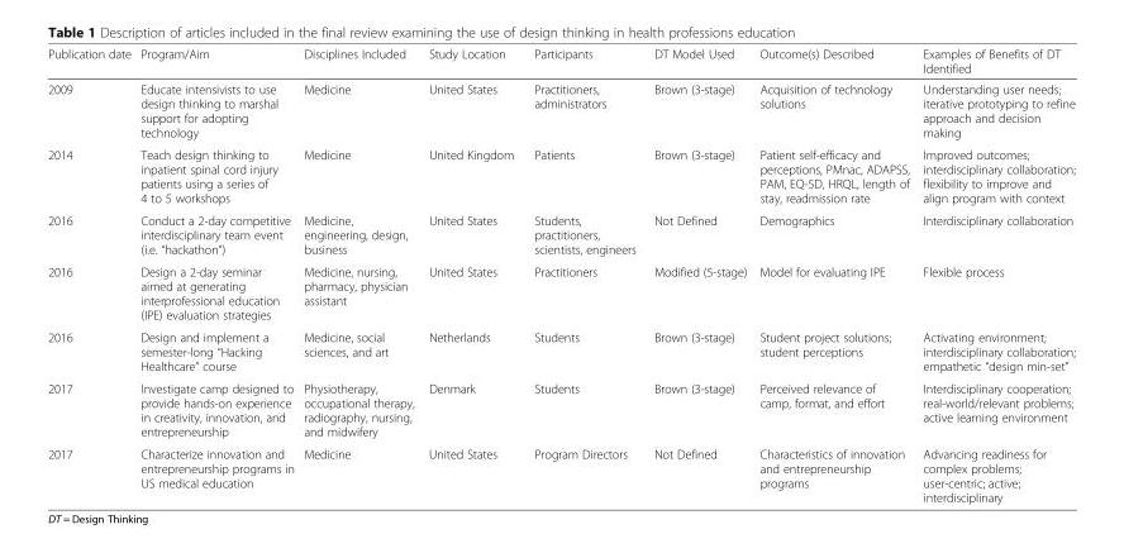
<table><thead><tr><td>Publication date</td><td>Program/Aim</td><td>Disciplines Included</td><td>Study Location</td><td>Participants</td><td>DT Model Used</td><td>Outcome(s) Described</td><td>Examples of Benefits of DT Identified</td></tr></thead><tbody><tr><td>2009</td><td>Educate intensivists to use design thinking to marshal support for adopting technology</td><td>Medicine</td><td>United States</td><td>Practitioners, administrators</td><td>Brown (3-stage)</td><td>Acquisition of technology solutions</td><td>Understanding user needs; iterative prototyping to refine approach and decision making</td></tr><tr><td>2014</td><td>Teach design thinking to inpatient spinal cord injury patients using a series of 4 to 5 workshops</td><td>Medicine</td><td>United Kingdom</td><td>Patients</td><td>Brown (3-stage)</td><td>Patient self-efficacy and perceptions, PMnac, ADAPSS, PAM, EQ-5D, HRQL, length of stay, readmission rate</td><td>Improved outcomes; interdisciplinary collaboration; flexibility to improve and align program with context</td></tr><tr><td>2016</td><td>Conduct a 2-day competitive interdisciplinary team event (i.e. “hackathon”)</td><td>Medicine, engineering, design, business</td><td>United States</td><td>Students, practitioners, scientists, engineers</td><td>Not Defined</td><td>Demographics</td><td>Interdisciplinary collaboration</td></tr><tr><td>2016</td><td>Design a 2-day seminar aimed at generating interprofessional education (IPE) evaluation strategies</td><td>Medicine, nursing, pharmacy, physician assistant</td><td>United States</td><td>Practitioners</td><td>Modified (5-stage)</td><td>Model for evaluating IPE</td><td>Flexible process</td></tr><tr><td>2016</td><td>Design and implement a semester-long “Hacking Healthcare” course</td><td>Medicine, social sciences, and art</td><td>Netherlands</td><td>Students</td><td>Brown (3-stage)</td><td>Student project solutions; student perceptions</td><td>Activating environment; interdisciplinary collaboration; empathetic “design min-set”</td></tr><tr><td>2017</td><td>Investigate camp designed to provide hands-on experience in creativity, innovation, and entrepreneurship</td><td>Physiotherapy, occupational therapy, radiography, nursing, and midwifery</td><td>Denmark</td><td>Students</td><td>Brown (3-stage)</td><td>Perceived relevance of camp, format, and effort</td><td>Interdisciplinary cooperation; real-world/relevant problems; active learning environment</td></tr><tr><td>2017</td><td>Characterize innovation and entrepreneurship programs in US medical education</td><td>Medicine</td><td>United States</td><td>Program Directors</td><td>Not Defined</td><td>Characteristics of innovation and entrepreneurship programs</td><td>Advancing readiness for complex problems; user-centric; active; interdisciplinary</td></tr></tbody></table>